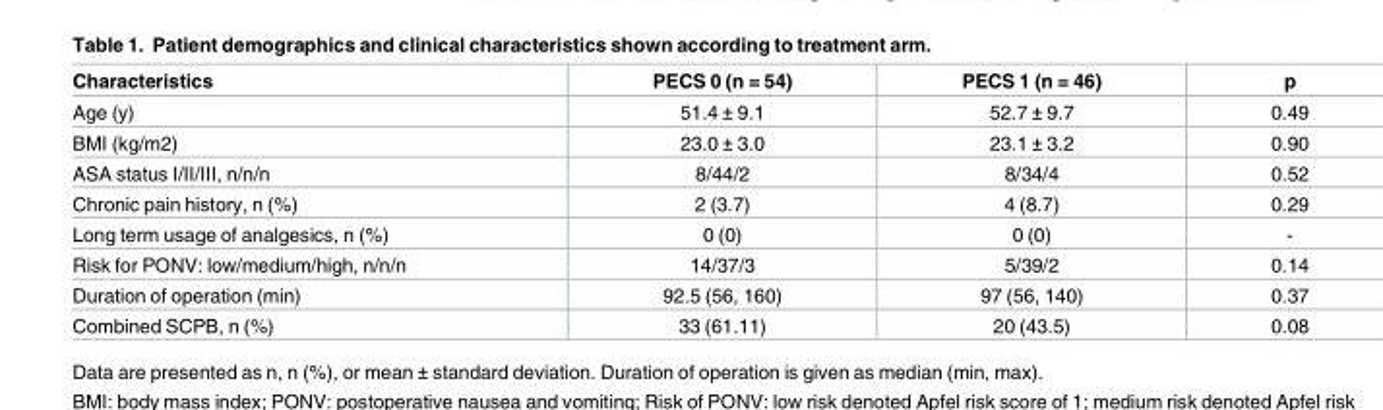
<table><thead><tr><td>Characteristics</td><td>PECS 0 (n = 54)</td><td>PECS 1 (n = 46)</td><td>p</td></tr></thead><tbody><tr><td>Age (y)</td><td>51.4 ± 9.1</td><td>52.7 ± 9.7</td><td>0.49</td></tr><tr><td>BMI (kg/m2)</td><td>23.0 ± 3.0</td><td>23.1 ± 3.2</td><td>0.90</td></tr><tr><td>ASA status I/II/III, n/n/n</td><td>8/44/2</td><td>8/34/4</td><td>0.52</td></tr><tr><td>Chronic pain history, n (%)</td><td>2 (3.7)</td><td>4 (8.7)</td><td>0.29</td></tr><tr><td>Long term usage of analgesics, n (%)</td><td>0 (0)</td><td>0 (0)</td><td>-</td></tr><tr><td>Risk for PONV: low/medium/high, n/n/n</td><td>14/37/3</td><td>5/39/2</td><td>0.14</td></tr><tr><td>Duration of operation (min)</td><td>92.5 (56, 160)</td><td>97 (56, 140)</td><td>0.37</td></tr><tr><td>Combined SCPB, n (%)</td><td>33 (61.11)</td><td>20 (43.5)</td><td>0.08</td></tr></tbody></table>